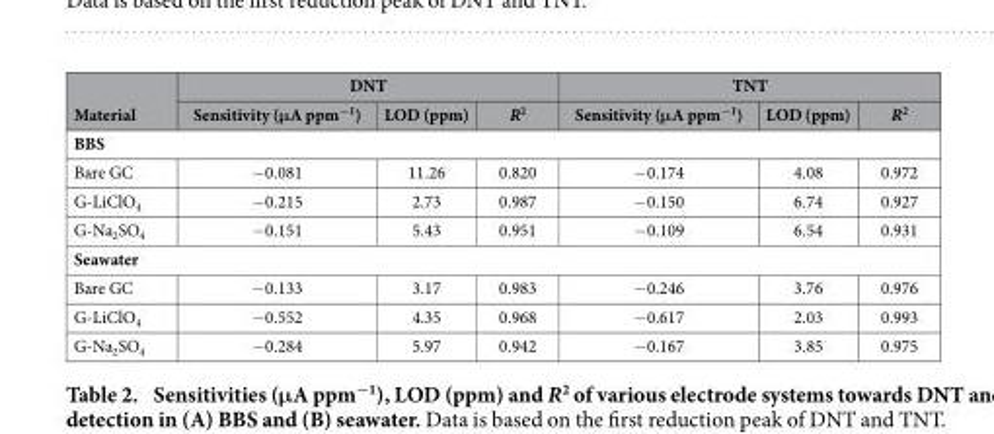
<table><thead><tr><td rowspan="2">Material</td><td colspan="3">DNT</td><td colspan="3">TNT</td></tr><tr><td>Sensitivity (μA ppm<sup>−1</sup>)</td><td>LOD (ppm)</td><td>R<sup>2</sup></td><td>Sensitivity (μA ppm<sup>−1</sup>)</td><td>LOD (ppm)</td><td>R<sup>2</sup></td></tr></thead><tbody><tr><td colspan="7">BBS</td></tr><tr><td>Bare GC</td><td>− 0.081</td><td>11.26</td><td>0.820</td><td>− 0.174</td><td>4.08</td><td>0.972</td></tr><tr><td>G-LiClO<sub>4</sub></td><td>− 0.215</td><td>2.73</td><td>0.987</td><td>− 0.150</td><td>6.74</td><td>0.927</td></tr><tr><td>G-Na<sub>2</sub>SO<sub>4</sub></td><td>− 0.151</td><td>5.43</td><td>0.951</td><td>− 0.109</td><td>6.54</td><td>0.931</td></tr><tr><td colspan="7">Seawater</td></tr><tr><td>Bare GC</td><td>− 0.133</td><td>3.17</td><td>0.983</td><td>− 0.246</td><td>3.76</td><td>0.976</td></tr><tr><td>G-LiClO<sub>4</sub></td><td>− 0.552</td><td>4.35</td><td>0.968</td><td>− 0.617</td><td>2.03</td><td>0.993</td></tr><tr><td>G-Na<sub>2</sub>SO<sub>4</sub></td><td>− 0.284</td><td>5.97</td><td>0.942</td><td>− 0.167</td><td>3.85</td><td>0.975</td></tr></tbody></table>